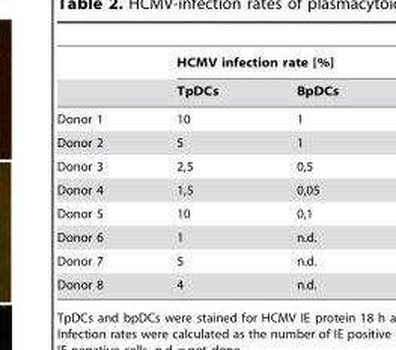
<table><thead><tr><td rowspan="2"></td><td colspan="2">HCMV infection rate [%]</td></tr><tr><td>TpDCs</td><td>BpDCs</td></tr></thead><tbody><tr><td>Donor 1</td><td>10</td><td>1</td></tr><tr><td>Donor 2</td><td>5</td><td>1</td></tr><tr><td>Donor 3</td><td>2,5</td><td>0,5</td></tr><tr><td>Donor 4</td><td>1,5</td><td>0,05</td></tr><tr><td>Donor 5</td><td>10</td><td>0,1</td></tr><tr><td>Donor 6</td><td>1</td><td>n.d.</td></tr><tr><td>Donor 7</td><td>5</td><td>n.d.</td></tr><tr><td>Donor 8</td><td>4</td><td>n.d.</td></tr></tbody></table>